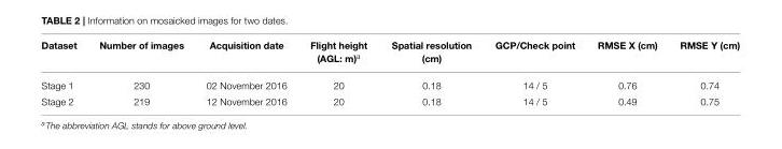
<table><thead><tr><td>Dataset</td><td>Number of images</td><td>Acquisition date</td><td>Flight height (AGL: m)<sup>a</sup></td><td>Spatial resolution (cm)</td><td>GCP/Check point</td><td>RMSE X (cm)</td><td>RMSE Y (cm)</td></tr></thead><tbody><tr><td>Stage 1</td><td>230</td><td>02 November 2016</td><td>20</td><td>0.18</td><td>14 / 5</td><td>0.76</td><td>0.74</td></tr><tr><td>Stage 2</td><td>219</td><td>12 November 2016</td><td>20</td><td>0.18</td><td>14 / 5</td><td>0.49</td><td>0.75</td></tr></tbody></table>